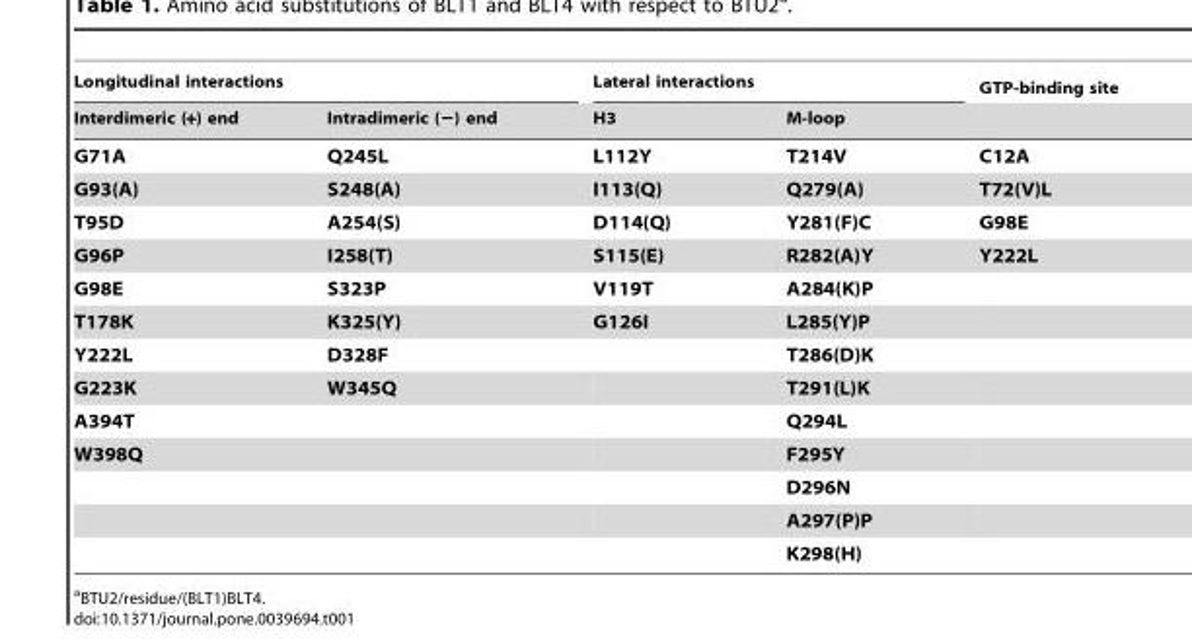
<table><thead><tr><td colspan="2">Longitudinal interactions</td><td colspan="2">Lateral interactions</td><td rowspan="2">GTP-binding site</td></tr><tr><td>Interdimeric (+) end</td><td>Intradimeric (−) end</td><td>H3</td><td>M-loop</td></tr></thead><tbody><tr><td>G71A</td><td>Q245L</td><td>L112Y</td><td>T214V</td><td>C12A</td></tr><tr><td>G93(A)</td><td>S248(A)</td><td>I113(Q)</td><td>Q279(A)</td><td>T72(V)L</td></tr><tr><td>T95D</td><td>A254(S)</td><td>D114(Q)</td><td>Y281(F)C</td><td>G98E</td></tr><tr><td>G96P</td><td>I258(T)</td><td>S115(E)</td><td>R282(A)Y</td><td>Y222L</td></tr><tr><td>G98E</td><td>S323P</td><td>V119T</td><td>A284(K)P</td><td></td></tr><tr><td>T178K</td><td>K325(Y)</td><td>G126I</td><td>L285(Y)P</td><td></td></tr><tr><td>Y222L</td><td>D328F</td><td></td><td>T286(D)K</td><td></td></tr><tr><td>G223K</td><td>W345Q</td><td></td><td>T291(L)K</td><td></td></tr><tr><td>A394T</td><td></td><td></td><td>Q294L</td><td></td></tr><tr><td rowspan="4">W398Q</td><td></td><td></td><td>F295Y</td><td></td></tr><tr><td></td><td></td><td>D296N</td><td></td></tr><tr><td></td><td></td><td>A297(P)P</td><td></td></tr><tr><td></td><td></td><td>K298(H)</td><td></td></tr></tbody></table>